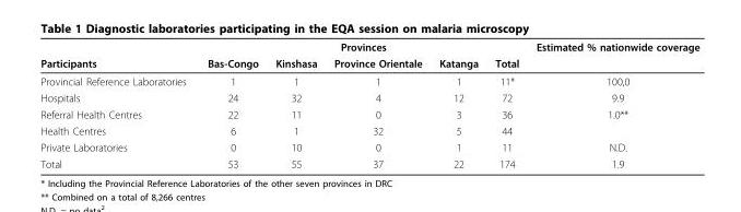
<table><thead><tr><td rowspan="2">Participants</td><td colspan="5">Provinces</td><td rowspan="2">Estimated % nationwide coverage</td></tr><tr><td>Bas-Congo</td><td>Kinshasa</td><td>Province Orientale</td><td>Katanga</td><td>Total</td></tr></thead><tbody><tr><td>Provincial Reference Laboratories</td><td>1</td><td>1</td><td>1</td><td>1</td><td>11*</td><td>100,0</td></tr><tr><td>Hospitals</td><td>24</td><td>32</td><td>4</td><td>12</td><td>72</td><td>9.9</td></tr><tr><td>Referral Health Centres</td><td>22</td><td>11</td><td>0</td><td>3</td><td>36</td><td>1.0**</td></tr><tr><td>Health Centres</td><td>6</td><td>1</td><td>32</td><td>5</td><td>44</td><td></td></tr><tr><td>Private Laboratories</td><td>0</td><td>10</td><td>0</td><td>1</td><td>11</td><td>N.D.</td></tr><tr><td>Total</td><td>53</td><td>55</td><td>37</td><td>22</td><td>174</td><td>1.9</td></tr></tbody></table>